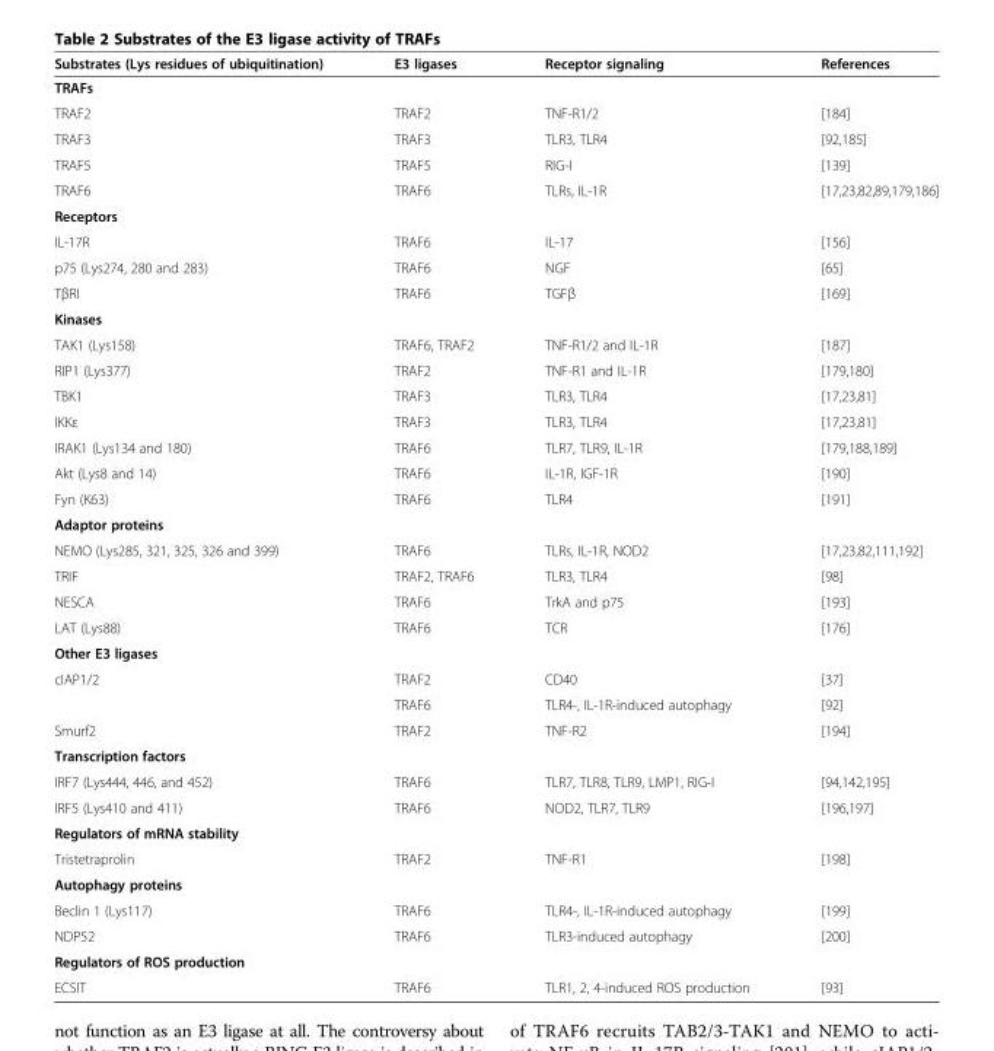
<table><thead><tr><td>Substrates (Lys residues of ubiquitination)</td><td>E3 ligases</td><td>Receptor signaling</td><td>References</td></tr></thead><tbody><tr><td colspan="4">TRAFs</td></tr><tr><td>TRAF2</td><td>TRAF2</td><td>TNF-R1/2</td><td>[184]</td></tr><tr><td>TRAF3</td><td>TRAF3</td><td>TLR3, TLR4</td><td>[92,185]</td></tr><tr><td>TRAF5</td><td>TRAF5</td><td>RIG-I</td><td>[139]</td></tr><tr><td>TRAF6</td><td>TRAF6</td><td>TLRs, IL-1R</td><td>[17,23,82,89,179,186]</td></tr><tr><td colspan="4">Receptors</td></tr><tr><td>IL-17R</td><td>TRAF6</td><td>IL-17</td><td>[156]</td></tr><tr><td>p75 (Lys274, 280 and 283)</td><td>TRAF6</td><td>NGF</td><td>[65]</td></tr><tr><td>TβRI</td><td>TRAF6</td><td>TGFβ</td><td>[169]</td></tr><tr><td colspan="4">Kinases</td></tr><tr><td>TAK1 (Lys158)</td><td>TRAF6, TRAF2</td><td>TNF-R1/2 and IL-1R</td><td>[187]</td></tr><tr><td>RIP1 (Lys377)</td><td>TRAF2</td><td>TNF-R1 and IL-1R</td><td>[179,180]</td></tr><tr><td>TBK1</td><td>TRAF3</td><td>TLR3, TLR4</td><td>[17,23,81]</td></tr><tr><td>IKKε</td><td>TRAF3</td><td>TLR3, TLR4</td><td>[17,23,81]</td></tr><tr><td>IRAK1 (Lys134 and 180)</td><td>TRAF6</td><td>TLR7, TLR9, IL-1R</td><td>[179,188,189]</td></tr><tr><td>Akt (Lys8 and 14)</td><td>TRAF6</td><td>IL-1R, IGF-1R</td><td>[190]</td></tr><tr><td>Fyn (K63)</td><td>TRAF6</td><td>TLR4</td><td>[191]</td></tr><tr><td colspan="4">Adaptor proteins</td></tr><tr><td>NEMO (Lys285, 321, 325, 326 and 399)</td><td>TRAF6</td><td>TLRs, IL-1R, NOD2</td><td>[17,23,82,111,192]</td></tr><tr><td>TRIF</td><td>TRAF2, TRAF6</td><td>TLR3, TLR4</td><td>[98]</td></tr><tr><td>NESCA</td><td>TRAF6</td><td>TrkA and p75</td><td>[193]</td></tr><tr><td>LAT (Lys88)</td><td>TRAF6</td><td>TCR</td><td>[176]</td></tr><tr><td colspan="4">Other E3 ligases</td></tr><tr><td rowspan="2">cIAP1/2</td><td>TRAF2</td><td>CD40</td><td>[37]</td></tr><tr><td>TRAF6</td><td>TLR4-, IL-1R-induced autophagy</td><td>[92]</td></tr><tr><td>Smurf2</td><td>TRAF2</td><td>TNF-R2</td><td>[194]</td></tr><tr><td colspan="4">Transcription factors</td></tr><tr><td>IRF7 (Lys444, 446, and 452)</td><td>TRAF6</td><td>TLR7, TLR8, TLR9, LMP1, RIG-I</td><td>[94,142,195]</td></tr><tr><td>IRF5 (Lys410 and 411)</td><td>TRAF6</td><td>NOD2, TLR7, TLR9</td><td>[196,197]</td></tr><tr><td colspan="4">Regulators of mRNA stability</td></tr><tr><td>Tristetraprolin</td><td>TRAF2</td><td>TNF-R1</td><td>[198]</td></tr><tr><td colspan="4">Autophagy proteins</td></tr><tr><td>Beclin 1 (Lys117)</td><td>TRAF6</td><td>TLR4-, IL-1R-induced autophagy</td><td>[199]</td></tr><tr><td>NDP52</td><td>TRAF6</td><td>TLR3-induced autophagy</td><td>[200]</td></tr><tr><td colspan="4">Regulators of ROS production</td></tr><tr><td>ECSIT</td><td>TRAF6</td><td>TLR1, 2, 4-induced ROS production</td><td>[93]</td></tr></tbody></table>